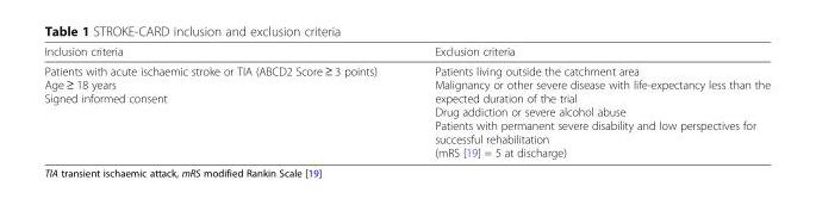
<table><thead><tr><td>Inclusion criteria</td><td>Exclusion criteria</td></tr></thead><tbody><tr><td>Patients with acute ischaemic stroke or TIA (ABCD2 Score ≥ 3 points) Age ≥ 18 years Signed informed consent</td><td>Patients living outside the catchment area Malignancy or other severe disease with life-expectancy less than the expected duration of the trial Drug addiction or severe alcohol abuse Patients with permanent severe disability and low perspectives for successful rehabilitation (mRS [19] = 5 at discharge)</td></tr></tbody></table>